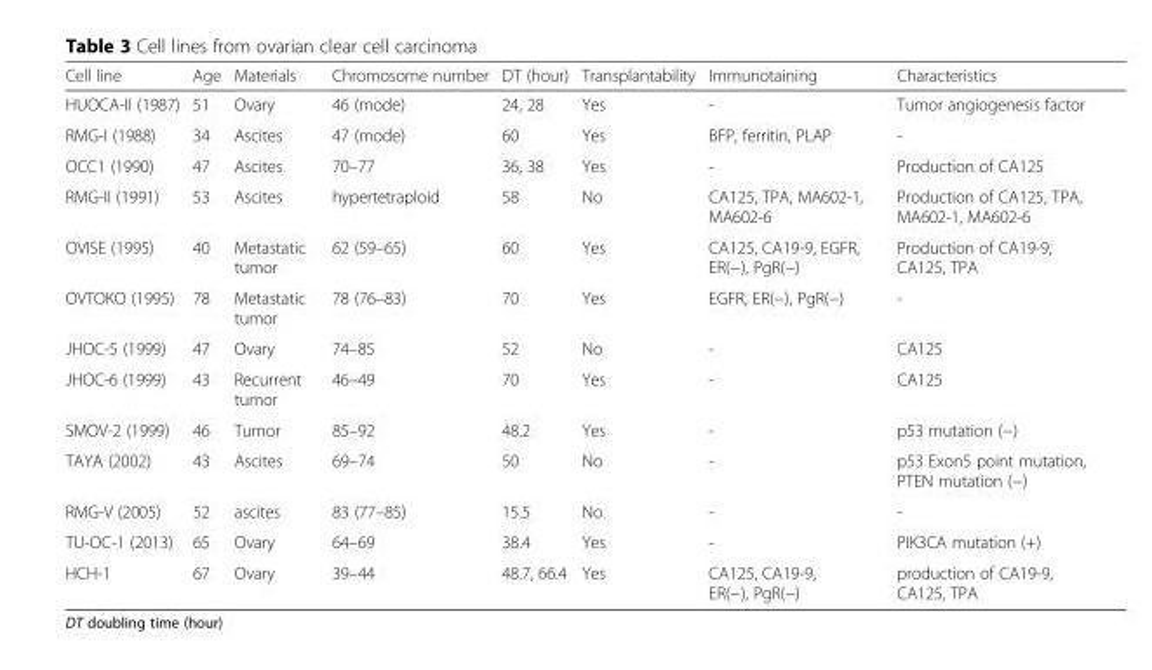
<table><thead><tr><td>Cell line</td><td>Age</td><td>Materials</td><td>Chromosome number</td><td>DT (hour)</td><td>Transplantability</td><td>Immunotaining</td><td>Characteristics</td></tr></thead><tbody><tr><td>HUOCA-II (1987)</td><td>51</td><td>Ovary</td><td>46 (mode)</td><td>24, 28</td><td>Yes</td><td>-</td><td>Tumor angiogenesis factor</td></tr><tr><td>RMG-I (1988)</td><td>34</td><td>Ascites</td><td>47 (mode)</td><td>60</td><td>Yes</td><td>BFP, ferritin, PLAP</td><td>-</td></tr><tr><td>OCC1 (1990)</td><td>47</td><td>Ascites</td><td>70–77</td><td>36, 38</td><td>Yes</td><td>-</td><td>Production of CA125</td></tr><tr><td>RMG-II (1991)</td><td>53</td><td>Ascites</td><td>hypertetraploid</td><td>58</td><td>No</td><td>CA125, TPA, MA602-1, MA602-6</td><td>Production of CA125, TPA, MA602-1, MA602-6</td></tr><tr><td>OVISE (1995)</td><td>40</td><td>Metastatic tumor</td><td>62 (59–65)</td><td>60</td><td>Yes</td><td>CA125, CA19-9, EGFR, ER(−), PgR(−)</td><td>Production of CA19-9, CA125, TPA</td></tr><tr><td>OVTOKO (1995)</td><td>78</td><td>Metastatic tumor</td><td>78 (76–83)</td><td>70</td><td>Yes</td><td>EGFR, ER(−), PgR(−)</td><td>-</td></tr><tr><td>JHOC-5 (1999)</td><td>47</td><td>Ovary</td><td>74–85</td><td>52</td><td>No</td><td>-</td><td>CA125</td></tr><tr><td>JHOC-6 (1999)</td><td>43</td><td>Recurrent tumor</td><td>46–49</td><td>70</td><td>Yes</td><td>-</td><td>CA125</td></tr><tr><td>SMOV-2 (1999)</td><td>46</td><td>Tumor</td><td>85–92</td><td>48.2</td><td>Yes</td><td>-</td><td>p53 mutation (−)</td></tr><tr><td>TAYA (2002)</td><td>43</td><td>Ascites</td><td>69–74</td><td>50</td><td>No</td><td>-</td><td>p53 Exon5 point mutation, PTEN mutation (−)</td></tr><tr><td>RMG-V (2005)</td><td>52</td><td>ascites</td><td>83 (77–85)</td><td>15.5</td><td>No</td><td>-</td><td>-</td></tr><tr><td>TU-OC-1 (2013)</td><td>65</td><td>Ovary</td><td>64–69</td><td>38.4</td><td>Yes</td><td>-</td><td>PIK3CA mutation (+)</td></tr><tr><td>HCH-1</td><td>67</td><td>Ovary</td><td>39–44</td><td>48.7, 66.4</td><td>Yes</td><td>CA125, CA19-9, ER(−), PgR(−)</td><td>production of CA19-9, CA125, TPA</td></tr></tbody></table>